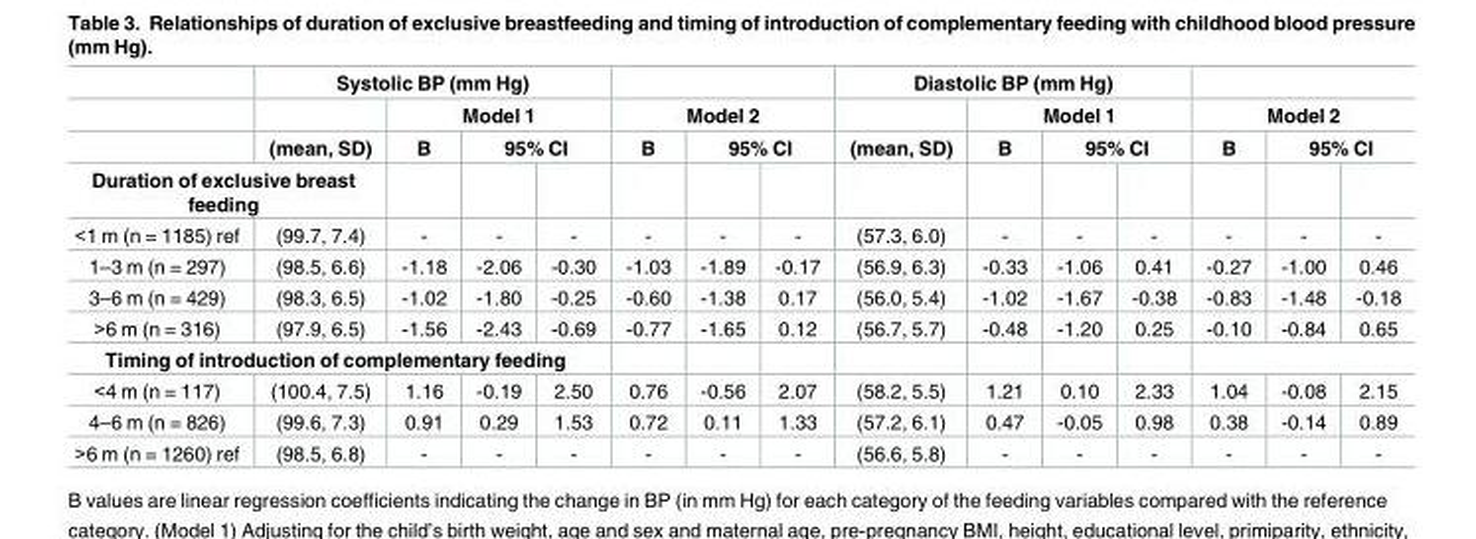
<table><thead><tr><td rowspan="3"></td><td colspan="4">Systolic BP (mm Hg)</td><td></td><td></td><td></td><td colspan="4">Diastolic BP (mm Hg)</td><td></td><td></td><td></td></tr><tr><td rowspan="2">(mean, SD)</td><td colspan="3">Model 1</td><td colspan="3">Model 2</td><td rowspan="3">(mean, SD)</td><td colspan="3">Model 1</td><td colspan="3">Model 2</td></tr><tr><td rowspan="2">B</td><td colspan="2">95% CI</td><td rowspan="2">B</td><td colspan="2">95% CI</td><td rowspan="2">B</td><td colspan="2">95% CI</td><td rowspan="2">B</td><td colspan="2">95% CI</td></tr><tr><td colspan="2">Duration of exclusive breast feeding</td><td></td><td></td><td></td><td></td><td></td><td></td><td></td><td></td></tr></thead><tbody><tr><td>&lt;1 m (n = 1185) ref</td><td>(99.7, 7.4)</td><td>-</td><td>-</td><td>-</td><td>-</td><td>-</td><td>-</td><td>(57.3, 6.0)</td><td>-</td><td>-</td><td>-</td><td>-</td><td>-</td><td>-</td></tr><tr><td>1–3 m (n = 297)</td><td>(98.5, 6.6)</td><td>-1.18</td><td>-2.06</td><td>-0.30</td><td>-1.03</td><td>-1.89</td><td>-0.17</td><td>(56.9, 6.3)</td><td>-0.33</td><td>-1.06</td><td>0.41</td><td>-0.27</td><td>-1.00</td><td>0.46</td></tr><tr><td>3–6 m (n = 429)</td><td>(98.3, 6.5)</td><td>-1.02</td><td>-1.80</td><td>-0.25</td><td>-0.60</td><td>-1.38</td><td>0.17</td><td>(56.0, 5.4)</td><td>-1.02</td><td>-1.67</td><td>-0.38</td><td>-0.83</td><td>-1.48</td><td>-0.18</td></tr><tr><td>&gt;6 m (n = 316)</td><td>(97.9, 6.5)</td><td>-1.56</td><td>-2.43</td><td>-0.69</td><td>-0.77</td><td>-1.65</td><td>0.12</td><td>(56.7, 5.7)</td><td>-0.48</td><td>-1.20</td><td>0.25</td><td>-0.10</td><td>-0.84</td><td>0.65</td></tr><tr><td colspan="15">Timing of introduction of complementary feeding</td></tr><tr><td>&lt;4 m (n = 117)</td><td>(100.4, 7.5)</td><td>1.16</td><td>-0.19</td><td>2.50</td><td>0.76</td><td>-0.56</td><td>2.07</td><td>(58.2, 5.5)</td><td>1.21</td><td>0.10</td><td>2.33</td><td>1.04</td><td>-0.08</td><td>2.15</td></tr><tr><td>4–6 m (n = 826)</td><td>(99.6, 7.3)</td><td>0.91</td><td>0.29</td><td>1.53</td><td>0.72</td><td>0.11</td><td>1.33</td><td>(57.2, 6.1)</td><td>0.47</td><td>-0.05</td><td>0.98</td><td>0.38</td><td>-0.14</td><td>0.89</td></tr><tr><td>&gt;6 m (n = 1260) ref</td><td>(98.5, 6.8)</td><td>-</td><td>-</td><td>-</td><td>-</td><td>-</td><td>-</td><td>(56.6, 5.8)</td><td>-</td><td>-</td><td>-</td><td>-</td><td>-</td><td>-</td></tr></tbody></table>